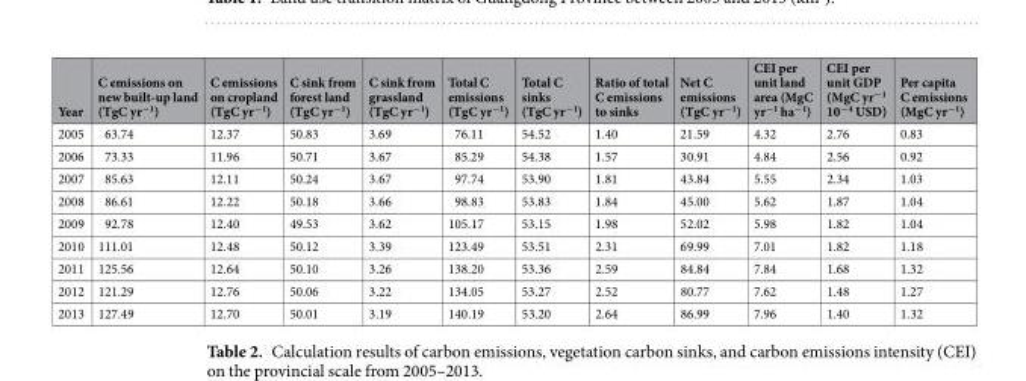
<table><thead><tr><td>Year</td><td>C emissions on new built-up land (TgC yr<sup>−1</sup>)</td><td>C emissions on cropland (TgC yr<sup>−1</sup>)</td><td>C sink from forest land (TgC yr<sup>−1</sup>)</td><td>C sink from grassland (TgC yr<sup>−1</sup>)</td><td>Total C emissions (TgC yr<sup>−1</sup>)</td><td>Total C sinks (TgC yr<sup>−1</sup>)</td><td>Ratio of total C emissions to sinks</td><td>Net C emissions (TgC yr<sup>−1</sup>)</td><td>CEI per unit land area (MgC yr<sup>−1</sup> ha<sup>−1</sup>)</td><td>CEI per unit GDP (MgC yr<sup>−1</sup> 10<sup>−4</sup> USD)</td><td>Per capita C emissions (MgC yr<sup>−1</sup>)</td></tr></thead><tbody><tr><td>2005</td><td>63.74</td><td>12.37</td><td>50.83</td><td>3.69</td><td>76.11</td><td>54.52</td><td>1.40</td><td>21.59</td><td>4.32</td><td>2.76</td><td>0.83</td></tr><tr><td>2006</td><td>73.33</td><td>11.96</td><td>50.71</td><td>3.67</td><td>85.29</td><td>54.38</td><td>1.57</td><td>30.91</td><td>4.84</td><td>2.56</td><td>0.92</td></tr><tr><td>2007</td><td>85.63</td><td>12.11</td><td>50.24</td><td>3.67</td><td>97.74</td><td>53.90</td><td>1.81</td><td>43.84</td><td>5.55</td><td>2.34</td><td>1.03</td></tr><tr><td>2008</td><td>86.61</td><td>12.22</td><td>50.18</td><td>3.66</td><td>98.83</td><td>53.83</td><td>1.84</td><td>45.00</td><td>5.62</td><td>1.87</td><td>1.04</td></tr><tr><td>2009</td><td>92.78</td><td>12.40</td><td>49.53</td><td>3.62</td><td>105.17</td><td>53.15</td><td>1.98</td><td>52.02</td><td>5.98</td><td>1.82</td><td>1.04</td></tr><tr><td>2010</td><td>111.01</td><td>12.48</td><td>50.12</td><td>3.39</td><td>123.49</td><td>53.51</td><td>2.31</td><td>69.99</td><td>7.01</td><td>1.82</td><td>1.18</td></tr><tr><td>2011</td><td>125.56</td><td>12.64</td><td>50.10</td><td>3.26</td><td>138.20</td><td>53.36</td><td>2.59</td><td>84.84</td><td>7.84</td><td>1.68</td><td>1.32</td></tr><tr><td>2012</td><td>121.29</td><td>12.76</td><td>50.06</td><td>3.22</td><td>134.05</td><td>53.27</td><td>2.52</td><td>80.77</td><td>7.62</td><td>1.48</td><td>1.27</td></tr><tr><td>2013</td><td>127.49</td><td>12.70</td><td>50.01</td><td>3.19</td><td>140.19</td><td>53.20</td><td>2.64</td><td>86.99</td><td>7.96</td><td>1.40</td><td>1.32</td></tr></tbody></table>